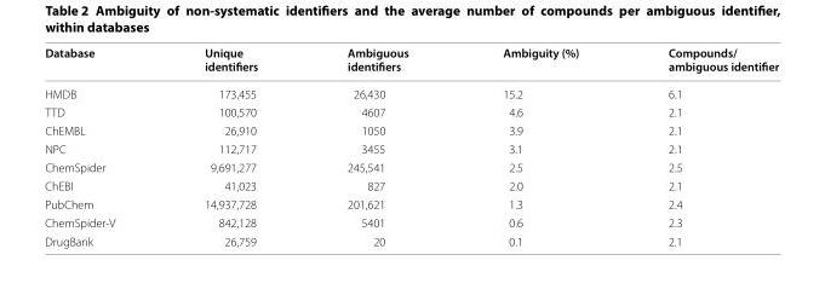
<table><thead><tr><td>Database</td><td>Unique identifiers</td><td>Ambiguous identifiers</td><td>Ambiguity (%)</td><td>Compounds/ ambiguous identifier</td></tr></thead><tbody><tr><td>HMDB</td><td>173,455</td><td>26,430</td><td>15.2</td><td>6.1</td></tr><tr><td>TTD</td><td>100,570</td><td>4607</td><td>4.6</td><td>2.1</td></tr><tr><td>ChEMBL</td><td>26,910</td><td>1050</td><td>3.9</td><td>2.1</td></tr><tr><td>NPC</td><td>112,717</td><td>3455</td><td>3.1</td><td>2.1</td></tr><tr><td>ChemSpider</td><td>9,691,277</td><td>245,541</td><td>2.5</td><td>2.5</td></tr><tr><td>ChEBI</td><td>41,023</td><td>827</td><td>2.0</td><td>2.1</td></tr><tr><td>PubChem</td><td>14,937,728</td><td>201,621</td><td>1.3</td><td>2.4</td></tr><tr><td>ChemSpider-V</td><td>842,128</td><td>5401</td><td>0.6</td><td>2.3</td></tr><tr><td>DrugBank</td><td>26,759</td><td>20</td><td>0.1</td><td>2.1</td></tr></tbody></table>